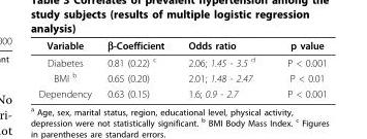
<table><thead><tr><td>Variable</td><td>β-Coefficient</td><td>Odds ratio</td><td>p value</td></tr></thead><tbody><tr><td>Diabetes</td><td>0.81 (0.22) <sup>c</sup></td><td>2.06; 1.45 - 3.5 <sup>d</sup></td><td>P &lt; 0.001</td></tr><tr><td>BMI <sup>b</sup></td><td>0.65 (0.20)</td><td>2.01; 1.48 - 2.47</td><td>P &lt; 0.01</td></tr><tr><td>Dependency</td><td>0.63 (0.15)</td><td>1.6; 0.9 - 2.7</td><td>P &lt; 0.001</td></tr></tbody></table>